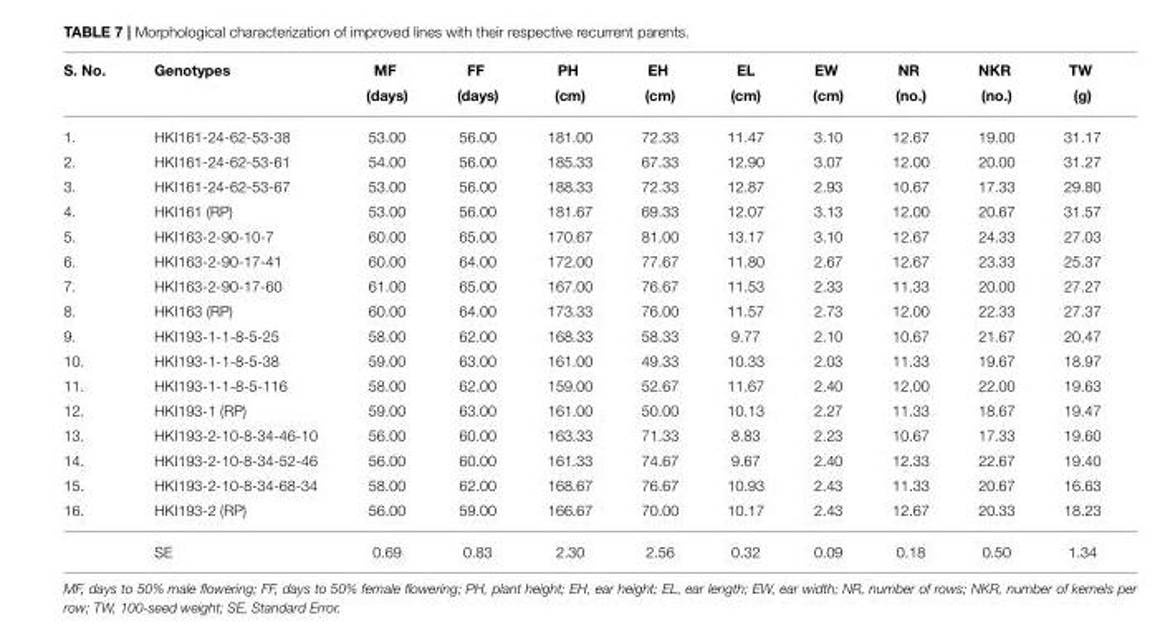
<table><thead><tr><td rowspan="2">S. No.</td><td rowspan="2">Genotypes</td><td rowspan="2">MF (days)</td><td rowspan="2">FF (days)</td><td rowspan="2">PH (cm)</td><td rowspan="2">EH (cm)</td><td rowspan="2">EL (cm)</td><td rowspan="2">EW (cm)</td><td rowspan="2">NR (no.)</td><td rowspan="2">NKR (no.)</td><td rowspan="2">TW (g)</td></tr><tr></tr></thead><tbody><tr><td>1.</td><td>HKI161-24-62-53-38</td><td>53.00</td><td>56.00</td><td>181.00</td><td>72.33</td><td>11.47</td><td>3.10</td><td>12.67</td><td>19.00</td><td>31.17</td></tr><tr><td>2.</td><td>HKI161-24-62-53-61</td><td>54.00</td><td>56.00</td><td>185.33</td><td>67.33</td><td>12.90</td><td>3.07</td><td>12.00</td><td>20.00</td><td>31.27</td></tr><tr><td>3.</td><td>HKI161-24-62-53-67</td><td>53.00</td><td>56.00</td><td>188.33</td><td>72.33</td><td>12.87</td><td>2.93</td><td>10.67</td><td>17.33</td><td>29.80</td></tr><tr><td>4.</td><td>HKI161 (RP)</td><td>53.00</td><td>56.00</td><td>181.67</td><td>69.33</td><td>12.07</td><td>3.13</td><td>12.00</td><td>20.67</td><td>31.57</td></tr><tr><td>5.</td><td>HKI163-2-90-10-7</td><td>60.00</td><td>65.00</td><td>170.67</td><td>81.00</td><td>13.17</td><td>3.10</td><td>12.67</td><td>24.33</td><td>27.03</td></tr><tr><td>6.</td><td>HKI163-2-90-17-41</td><td>60.00</td><td>64.00</td><td>172.00</td><td>77.67</td><td>11.80</td><td>2.67</td><td>12.67</td><td>23.33</td><td>25.37</td></tr><tr><td>7.</td><td>HKI163-2-90-17-60</td><td>61.00</td><td>65.00</td><td>167.00</td><td>76.67</td><td>11.53</td><td>2.33</td><td>11.33</td><td>20.00</td><td>27.27</td></tr><tr><td>8.</td><td>HKI163 (RP)</td><td>60.00</td><td>64.00</td><td>173.33</td><td>76.00</td><td>11.57</td><td>2.73</td><td>12.00</td><td>22.33</td><td>27.37</td></tr><tr><td>9.</td><td>HKI193-1-1-8-5-25</td><td>58.00</td><td>62.00</td><td>168.33</td><td>58.33</td><td>9.77</td><td>2.10</td><td>10.67</td><td>21.67</td><td>20.47</td></tr><tr><td>10.</td><td>HKI193-1-1-8-5-38</td><td>59.00</td><td>63.00</td><td>161.00</td><td>49.33</td><td>10.33</td><td>2.03</td><td>11.33</td><td>19.67</td><td>18.97</td></tr><tr><td>11.</td><td>HKI193-1-1-8-5-116</td><td>58.00</td><td>62.00</td><td>159.00</td><td>52.67</td><td>11.67</td><td>2.40</td><td>12.00</td><td>22.00</td><td>19.63</td></tr><tr><td>12.</td><td>HKI193-1 (RP)</td><td>59.00</td><td>63.00</td><td>161.00</td><td>50.00</td><td>10.13</td><td>2.27</td><td>11.33</td><td>18.67</td><td>19.47</td></tr><tr><td>13.</td><td>HKI193-2-10-8-34-46-10</td><td>56.00</td><td>60.00</td><td>163.33</td><td>71.33</td><td>8.83</td><td>2.23</td><td>10.67</td><td>17.33</td><td>19.60</td></tr><tr><td>14.</td><td>HKI193-2-10-8-34-52-46</td><td>56.00</td><td>60.00</td><td>161.33</td><td>74.67</td><td>9.67</td><td>2.40</td><td>12.33</td><td>22.67</td><td>19.40</td></tr><tr><td>15.</td><td>HKI193-2-10-8-34-68-34</td><td>58.00</td><td>62.00</td><td>168.67</td><td>76.67</td><td>10.93</td><td>2.43</td><td>11.33</td><td>20.67</td><td>16.63</td></tr><tr><td rowspan="2">16.</td><td>HKI193-2 (RP)</td><td>56.00</td><td>59.00</td><td>166.67</td><td>70.00</td><td>10.17</td><td>2.43</td><td>12.67</td><td>20.33</td><td>18.23</td></tr><tr><td>SE</td><td>0.69</td><td>0.83</td><td>2.30</td><td>2.56</td><td>0.32</td><td>0.09</td><td>0.18</td><td>0.50</td><td>1.34</td></tr></tbody></table>